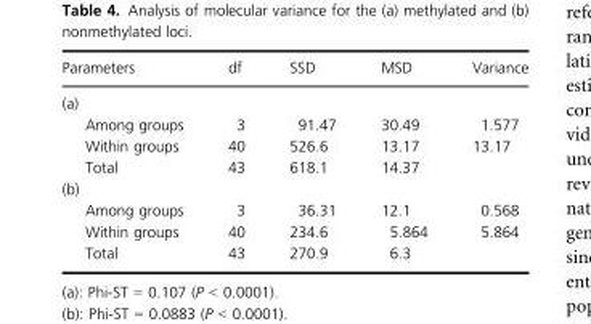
<table><thead><tr><td>Parameters</td><td>df</td><td>SSD</td><td>MSD</td><td>Variance</td></tr></thead><tbody><tr><td colspan="5">(a)</td></tr><tr><td>Among groups</td><td>3</td><td>91.47</td><td>30.49</td><td>1.577</td></tr><tr><td>Within groups</td><td>40</td><td>526.6</td><td>13.17</td><td>13.17</td></tr><tr><td>Total</td><td>43</td><td>618.1</td><td>14.37</td><td></td></tr><tr><td colspan="5">(b)</td></tr><tr><td>Among groups</td><td>3</td><td>36.31</td><td>12.1</td><td>0.568</td></tr><tr><td>Within groups</td><td>40</td><td>234.6</td><td>5.864</td><td>5.864</td></tr><tr><td>Total</td><td>43</td><td>270.9</td><td>6.3</td><td></td></tr></tbody></table>